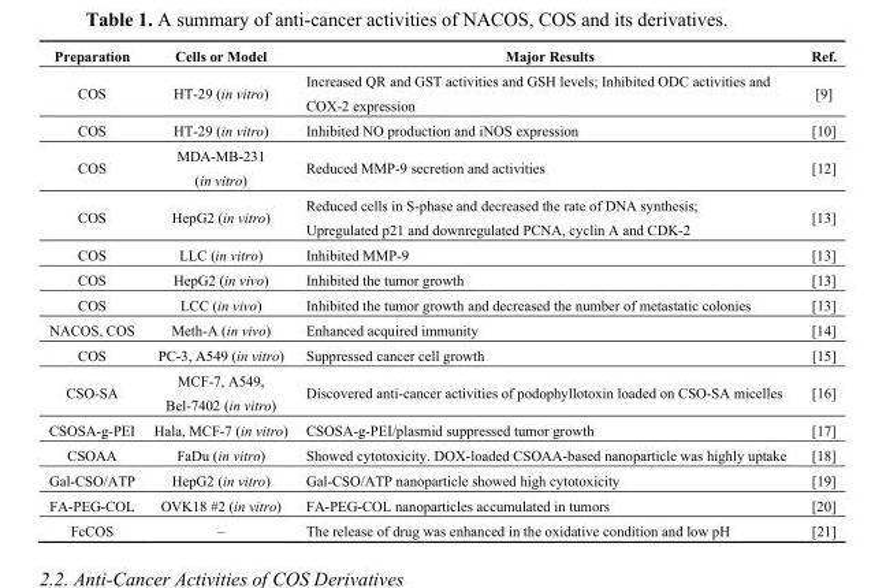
<table><thead><tr><td>Preparation</td><td>Cells or Model</td><td>Major Results</td><td>Ref.</td></tr></thead><tbody><tr><td>COS</td><td>HT-29 (in vitro)</td><td>Increased QR and GST activities and GSH levels; Inhibited ODC activities and COX-2 expression</td><td>[9]</td></tr><tr><td>COS</td><td>HT-29 (in vitro)</td><td>Inhibited NO production and iNOS expression</td><td>[10]</td></tr><tr><td>COS</td><td>MDA-MB-231 (in vitro)</td><td>Reduced MMP-9 secretion and activities</td><td>[12]</td></tr><tr><td>COS</td><td>HepG2 (in vitro)</td><td>Reduced cells in S-phase and decreased the rate of DNA synthesis; Upregulated p21 and downregulated PCNA, cyclin A and CDK-2</td><td>[13]</td></tr><tr><td>COS</td><td>LLC (in vitro)</td><td>Inhibited MMP-9</td><td>[13]</td></tr><tr><td>COS</td><td>HepG2 (in vivo)</td><td>Inhibited the tumor growth</td><td>[13]</td></tr><tr><td>COS</td><td>LCC (in vivo)</td><td>Inhibited the tumor growth and decreased the number of metastatic colonies</td><td>[13]</td></tr><tr><td>NACOS, COS</td><td>Meth-A (in vivo)</td><td>Enhanced acquired immunity</td><td>[14]</td></tr><tr><td>COS</td><td>PC-3, A549 (in vitro)</td><td>Suppressed cancer cell growth</td><td>[15]</td></tr><tr><td>CSO-SA</td><td>MCF-7, A549, Bel-7402 (in vitro)</td><td>Discovered anti-cancer activities of podophyllotoxin loaded on CSO-SA micelles</td><td>[16]</td></tr><tr><td>CSOSA-g-PEI</td><td>Hala, MCF-7 (in vitro)</td><td>CSOSA-g-PEI/plasmid suppressed tumor growth</td><td>[17]</td></tr><tr><td>CSOAA</td><td>FaDu (in vitro)</td><td>Showed cytotoxicity. DOX-loaded CSOAA-based nanoparticle was highly uptake</td><td>[18]</td></tr><tr><td>Gal-CSO/ATP</td><td>HepG2 (in vitro)</td><td>Gal-CSO/ATP nanoparticle showed high cytotoxicity</td><td>[19]</td></tr><tr><td>FA-PEG-COL</td><td>OVK18 #2 (in vitro)</td><td>FA-PEG-COL nanoparticles accumulated in tumors</td><td>[20]</td></tr><tr><td>FcCOS</td><td>–</td><td>The release of drug was enhanced in the oxidative condition and low pH</td><td>[21]</td></tr></tbody></table>